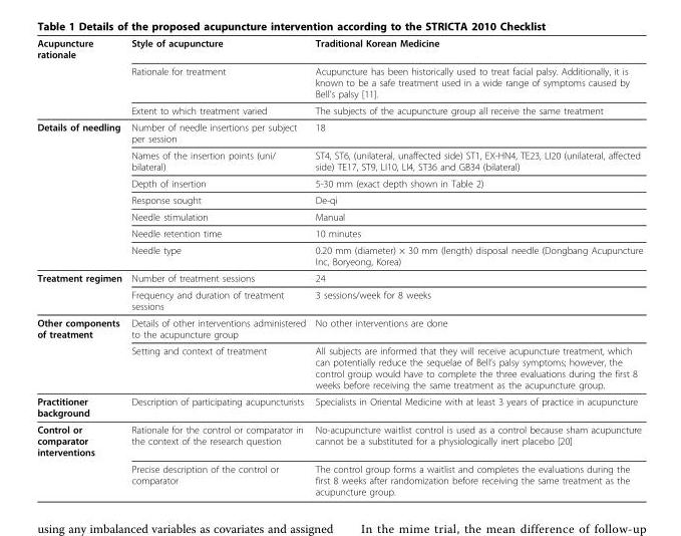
<table><thead><tr><td rowspan="3">Acupuncture rationale</td><td rowspan="3">Style of acupuncture Rationale for treatment Extent to which treatment varied</td><td rowspan="3">Traditional Korean Medicine Acupuncture has been historically used to treat facial palsy. Additionally, it is known to be a safe treatment used in a wide range of symptoms caused by Bell’s palsy [11]. The subjects of the acupuncture group all receive the same treatment</td></tr><tr></tr><tr></tr></thead><tbody><tr><td rowspan="7">Details of needling</td><td>Number of needle insertions per subject per session</td><td>18</td></tr><tr><td>Names of the insertion points (uni/ bilateral)</td><td>ST4, ST6, (unilateral, unaffected side) ST1, EX-HN4, TE23, LI20 (unilateral, affected side) TE17, ST9, LI10, LI4, ST36 and GB34 (bilateral)</td></tr><tr><td>Depth of insertion</td><td>5-30 mm (exact depth shown in Table 2)</td></tr><tr><td>Response sought</td><td>De-qi</td></tr><tr><td>Needle stimulation</td><td>Manual</td></tr><tr><td>Needle retention time</td><td>10 minutes</td></tr><tr><td>Needle type</td><td>0.20 mm (diameter) × 30 mm (length) disposal needle (Dongbang Acupuncture Inc, Boryeong, Korea)</td></tr><tr><td rowspan="2">Treatment regimen</td><td>Number of treatment sessions</td><td>24</td></tr><tr><td>Frequency and duration of treatment sessions</td><td>3 sessions/week for 8 weeks</td></tr><tr><td rowspan="2">Other components of treatment</td><td>Details of other interventions administered to the acupuncture group</td><td>No other interventions are done</td></tr><tr><td>Setting and context of treatment</td><td>All subjects are informed that they will receive acupuncture treatment, which can potentially reduce the sequelae of Bell’s palsy symptoms; however, the control group would have to complete the three evaluations during the first 8 weeks before receiving the same treatment as the acupuncture group.</td></tr><tr><td>Practitioner background</td><td>Description of participating acupuncturists</td><td>Specialists in Oriental Medicine with at least 3 years of practice in acupuncture</td></tr><tr><td rowspan="2">Control or comparator interventions</td><td>Rationale for the control or comparator in the context of the research question</td><td>No-acupuncture waitlist control is used as a control because sham acupuncture cannot be a substituted for a physiologically inert placebo [20]</td></tr><tr><td>Precise description of the control or comparator</td><td>The control group forms a waitlist and completes the evaluations during the first 8 weeks after randomization before receiving the same treatment as the acupuncture group.</td></tr></tbody></table>